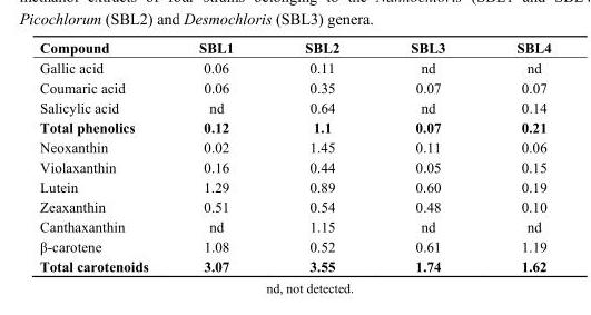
<table><thead><tr><td>Compound</td><td>SBL1</td><td>SBL2</td><td>SBL3</td><td>SBL4</td></tr></thead><tbody><tr><td>Gallic acid</td><td>0.06</td><td>0.11</td><td>nd</td><td>nd</td></tr><tr><td>Coumaric acid</td><td>0.06</td><td>0.35</td><td>0.07</td><td>0.07</td></tr><tr><td>Salicylic acid</td><td>nd</td><td>0.64</td><td>nd</td><td>0.14</td></tr><tr><td>Total phenolics</td><td>0.12</td><td>1.1</td><td>0.07</td><td>0.21</td></tr><tr><td>Neoxanthin</td><td>0.02</td><td>1.45</td><td>0.11</td><td>0.06</td></tr><tr><td>Violaxanthin</td><td>0.16</td><td>0.44</td><td>0.05</td><td>0.15</td></tr><tr><td>Lutein</td><td>1.29</td><td>0.89</td><td>0.60</td><td>0.19</td></tr><tr><td>Zeaxanthin</td><td>0.51</td><td>0.54</td><td>0.48</td><td>0.10</td></tr><tr><td>Canthaxanthin</td><td>nd</td><td>1.15</td><td>nd</td><td>nd</td></tr><tr><td>β-carotene</td><td>1.08</td><td>0.52</td><td>0.61</td><td>1.19</td></tr><tr><td>Total carotenoids</td><td>3.07</td><td>3.55</td><td>1.74</td><td>1.62</td></tr></tbody></table>